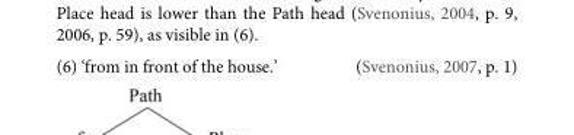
<table><tbody><tr><td>(6) ‘from in front of the house.’</td><td>(Svenonius, 2007, p. 1)</td></tr></tbody></table>